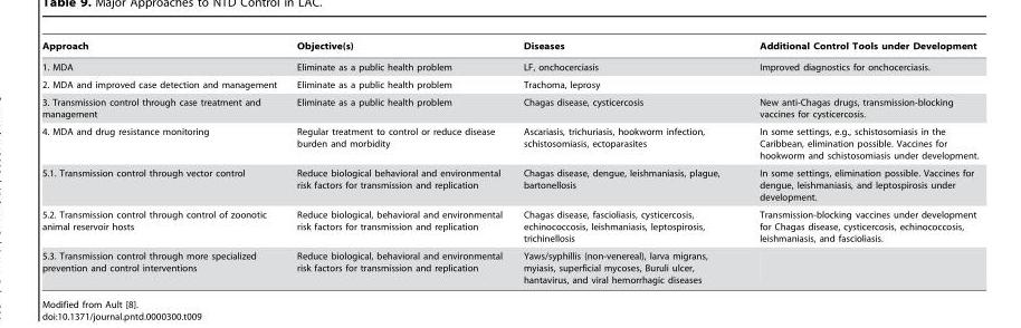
<table><thead><tr><td>Approach</td><td>Objective(s)</td><td>Diseases</td><td>Additional Control Tools under Development</td></tr></thead><tbody><tr><td>1. MDA</td><td>Eliminate as a public health problem</td><td>LF, onchocerciasis</td><td>Improved diagnostics for onchocerciasis.</td></tr><tr><td>2. MDA and improved case detection and management</td><td>Eliminate as a public health problem</td><td>Trachoma, leprosy</td><td></td></tr><tr><td>3. Transmission control through case treatment and management</td><td>Eliminate as a public health problem</td><td>Chagas disease, cysticercosis</td><td>New anti-Chagas drugs, transmission-blocking vaccines for cysticercosis.</td></tr><tr><td>4. MDA and drug resistance monitoring</td><td>Regular treatment to control or reduce disease burden and morbidity</td><td>Ascariasis, trichuriasis, hookworm infection, schistosomiasis, ectoparasites</td><td>In some settings, e.g., schistosomiasis in the Caribbean, elimination possible. Vaccines for hookworm and schistosomiasis under development.</td></tr><tr><td>5.1. Transmission control through vector control</td><td>Reduce biological behavioral and environmental risk factors for transmission and replication</td><td>Chagas disease, dengue, leishmaniasis, plague, bartonellosis</td><td>In some settings, elimination possible. Vaccines for dengue, leishmaniasis, and leptospirosis under development.</td></tr><tr><td>5.2. Transmission control through control of zoonotic animal reservoir hosts</td><td>Reduce biological, behavioral and environmental risk factors for transmission and replication</td><td>Chagas disease, fascioliasis, cysticercosis, echinococcosis, leishmaniasis, leptospirosis, trichinellosis</td><td>Transmission-blocking vaccines under development for Chagas disease, cysticercosis, echinococcosis, leishmaniasis, and fascioliasis.</td></tr><tr><td>5.3. Transmission control through more specialized prevention and control interventions</td><td>Reduce biological, behavioral and environmental risk factors for transmission and replication</td><td>Yaws/syphillis (non-venereal), larva migrans, myiasis, superficial mycoses, Buruli ulcer, hantavirus, and viral hemorrhagic diseases</td><td></td></tr></tbody></table>